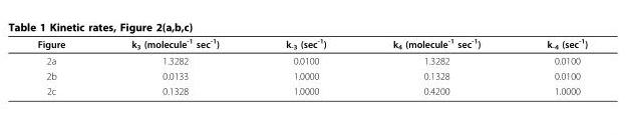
<table><thead><tr><td>Figure</td><td>k<sub>3</sub> (molecule<sup>-1</sup> sec<sup>-1</sup>)</td><td>k<sub>-3</sub> (sec<sup>-1</sup>)</td><td>k<sub>4</sub> (molecule<sup>-1</sup> sec<sup>-1</sup>)</td><td>k<sub>-4</sub> (sec<sup>-1</sup>)</td></tr></thead><tbody><tr><td>2a</td><td>1.3282</td><td>0.0100</td><td>1.3282</td><td>0.0100</td></tr><tr><td>2b</td><td>0.0133</td><td>1.0000</td><td>0.1328</td><td>0.0100</td></tr><tr><td>2c</td><td>0.1328</td><td>1.0000</td><td>0.4200</td><td>1.0000</td></tr></tbody></table>